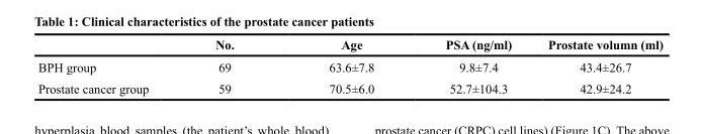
<table><thead><tr><td></td><td>No.</td><td>Age</td><td>PSA (ng/ml)</td><td>Prostate volumn (ml)</td></tr></thead><tbody><tr><td>BPH group</td><td>69</td><td>63.6±7.8</td><td>9.8±7.4</td><td>43.4±26.7</td></tr><tr><td>Prostate cancer group</td><td>59</td><td>70.5±6.0</td><td>52.7±104.3</td><td>42.9±24.2</td></tr></tbody></table>